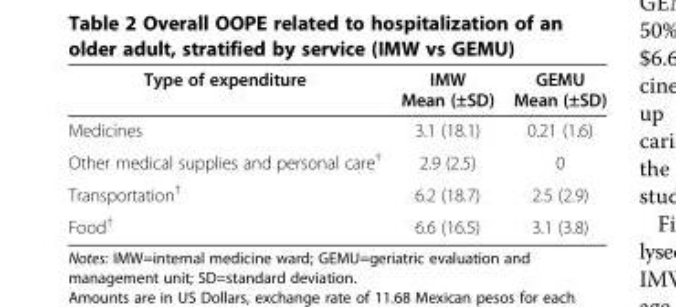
<table><thead><tr><td>Type of expenditure</td><td>IMW Mean (±SD)</td><td>GEMU Mean (±SD)</td></tr></thead><tbody><tr><td>Medicines</td><td>3.1 (18.1)</td><td>0.21 (1.6)</td></tr><tr><td>Other medical supplies and personal care<sup>†</sup></td><td>2.9 (2.5)</td><td>0</td></tr><tr><td>Transportation<sup>†</sup></td><td>6.2 (18.7)</td><td>2.5 (2.9)</td></tr><tr><td>Food<sup>†</sup></td><td>6.6 (16.5)</td><td>3.1 (3.8)</td></tr></tbody></table>